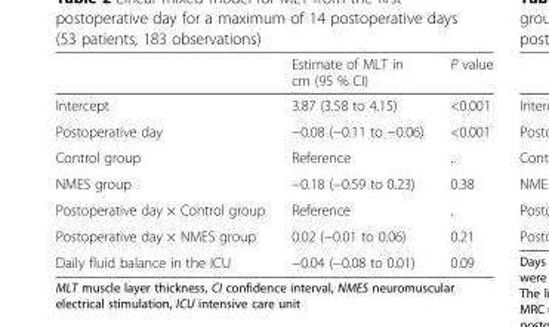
<table><thead><tr><td></td><td>Estimate of MLT in cm (95 % CI)</td><td>P value</td></tr></thead><tbody><tr><td>Intercept</td><td>3.87 (3.58 to 4.15)</td><td>&lt;0.001</td></tr><tr><td>Postoperative day</td><td>−0.08 (−0.11 to −0.06)</td><td>&lt;0.001</td></tr><tr><td>Control group</td><td>Reference</td><td>.</td></tr><tr><td>NMES group</td><td>−0.18 (−0.59 to 0.23)</td><td>0.38</td></tr><tr><td>Postoperative day × Control group</td><td>Reference</td><td>.</td></tr><tr><td>Postoperative day × NMES group</td><td>0.02 (−0.01 to 0.06)</td><td>0.21</td></tr><tr><td>Daily fluid balance in the ICU</td><td>−0.04 (−0.08 to 0.01)</td><td>0.09</td></tr></tbody></table>